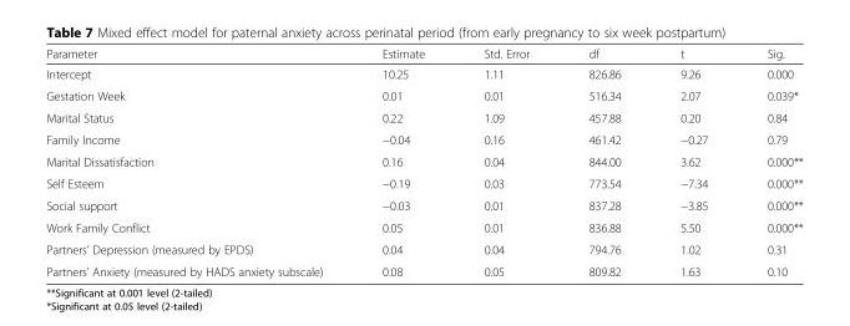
<table><thead><tr><td>Parameter</td><td>Estimate</td><td>Std. Error</td><td>df</td><td>t</td><td>Sig.</td></tr></thead><tbody><tr><td>Intercept</td><td>10.25</td><td>1.11</td><td>826.86</td><td>9.26</td><td>0.000</td></tr><tr><td>Gestation Week</td><td>0.01</td><td>0.01</td><td>516.34</td><td>2.07</td><td>0.039*</td></tr><tr><td>Marital Status</td><td>0.22</td><td>1.09</td><td>457.88</td><td>0.20</td><td>0.84</td></tr><tr><td>Family Income</td><td>−0.04</td><td>0.16</td><td>461.42</td><td>−0.27</td><td>0.79</td></tr><tr><td>Marital Dissatisfaction</td><td>0.16</td><td>0.04</td><td>844.00</td><td>3.62</td><td>0.000**</td></tr><tr><td>Self Esteem</td><td>−0.19</td><td>0.03</td><td>773.54</td><td>−7.34</td><td>0.000**</td></tr><tr><td>Social support</td><td>−0.03</td><td>0.01</td><td>837.28</td><td>−3.85</td><td>0.000**</td></tr><tr><td>Work Family Conflict</td><td>0.05</td><td>0.01</td><td>836.88</td><td>5.50</td><td>0.000**</td></tr><tr><td>Partners’ Depression (measured by EPDS)</td><td>0.04</td><td>0.04</td><td>794.76</td><td>1.02</td><td>0.31</td></tr><tr><td>Partners’ Anxiety (measured by HADS anxiety subscale)</td><td>0.08</td><td>0.05</td><td>809.82</td><td>1.63</td><td>0.10</td></tr></tbody></table>